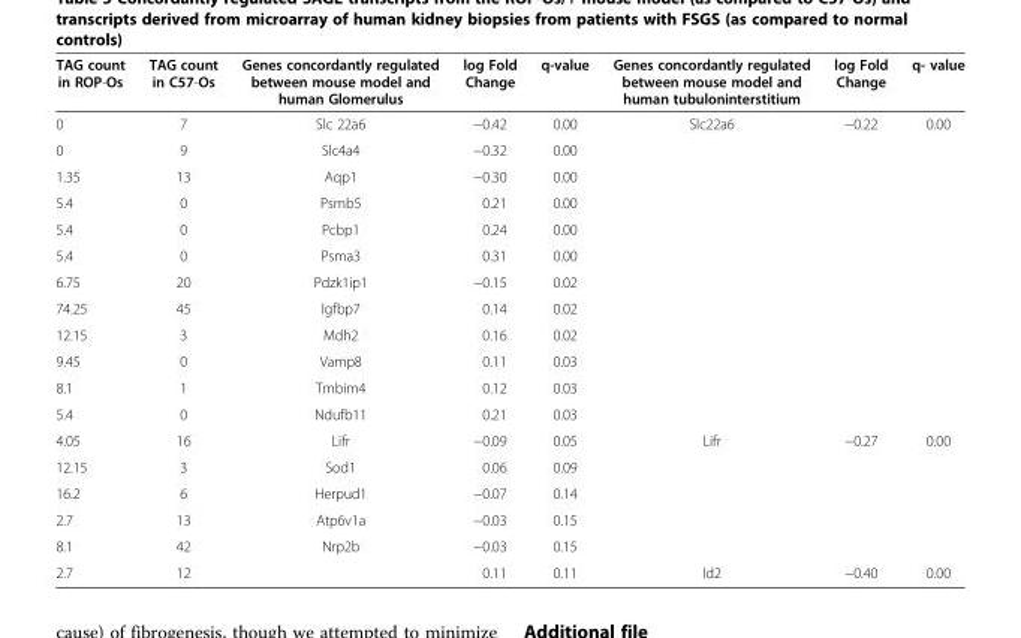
<table><thead><tr><td>TAG count in ROP-Os</td><td>TAG count in C57-Os</td><td>Genes concordantly regulated between mouse model and human Glomerulus</td><td>log Fold Change</td><td>q-value</td><td>Genes concordantly regulated between mouse model and human tubuloninterstitium</td><td>log Fold Change</td><td>q- value</td></tr></thead><tbody><tr><td>0</td><td>7</td><td>Slc 22a6</td><td>−0.42</td><td>0.00</td><td>Slc22a6</td><td>−0.22</td><td>0.00</td></tr><tr><td>0</td><td>9</td><td>Slc4a4</td><td>−0.32</td><td>0.00</td><td></td><td></td><td></td></tr><tr><td>1.35</td><td>13</td><td>Aqp1</td><td>−0.30</td><td>0.00</td><td></td><td></td><td></td></tr><tr><td>5.4</td><td>0</td><td>Psmb5</td><td>0.21</td><td>0.00</td><td></td><td></td><td></td></tr><tr><td>5.4</td><td>0</td><td>Pcbp1</td><td>0.24</td><td>0.00</td><td></td><td></td><td></td></tr><tr><td>5.4</td><td>0</td><td>Psma3</td><td>0.31</td><td>0.00</td><td></td><td></td><td></td></tr><tr><td>6.75</td><td>20</td><td>Pdzk1ip1</td><td>−0.15</td><td>0.02</td><td></td><td></td><td></td></tr><tr><td>74.25</td><td>45</td><td>Igfbp7</td><td>0.14</td><td>0.02</td><td></td><td></td><td></td></tr><tr><td>12.15</td><td>3</td><td>Mdh2</td><td>0.16</td><td>0.02</td><td></td><td></td><td></td></tr><tr><td>9.45</td><td>0</td><td>Vamp8</td><td>0.11</td><td>0.03</td><td></td><td></td><td></td></tr><tr><td>8.1</td><td>1</td><td>Tmbim4</td><td>0.12</td><td>0.03</td><td></td><td></td><td></td></tr><tr><td>5.4</td><td>0</td><td>Ndufb11</td><td>0.21</td><td>0.03</td><td></td><td></td><td></td></tr><tr><td>4.05</td><td>16</td><td>Lifr</td><td>−0.09</td><td>0.05</td><td>Lifr</td><td>−0.27</td><td>0.00</td></tr><tr><td>12.15</td><td>3</td><td>Sod1</td><td>0.06</td><td>0.09</td><td></td><td></td><td></td></tr><tr><td>16.2</td><td>6</td><td>Herpud1</td><td>−0.07</td><td>0.14</td><td></td><td></td><td></td></tr><tr><td>2.7</td><td>13</td><td>Atp6v1a</td><td>−0.03</td><td>0.15</td><td></td><td></td><td></td></tr><tr><td>8.1</td><td>42</td><td>Nrp2b</td><td>−0.03</td><td>0.15</td><td></td><td></td><td></td></tr><tr><td>2.7</td><td>12</td><td></td><td>0.11</td><td>0.11</td><td>Id2</td><td>−0.40</td><td>0.00</td></tr></tbody></table>